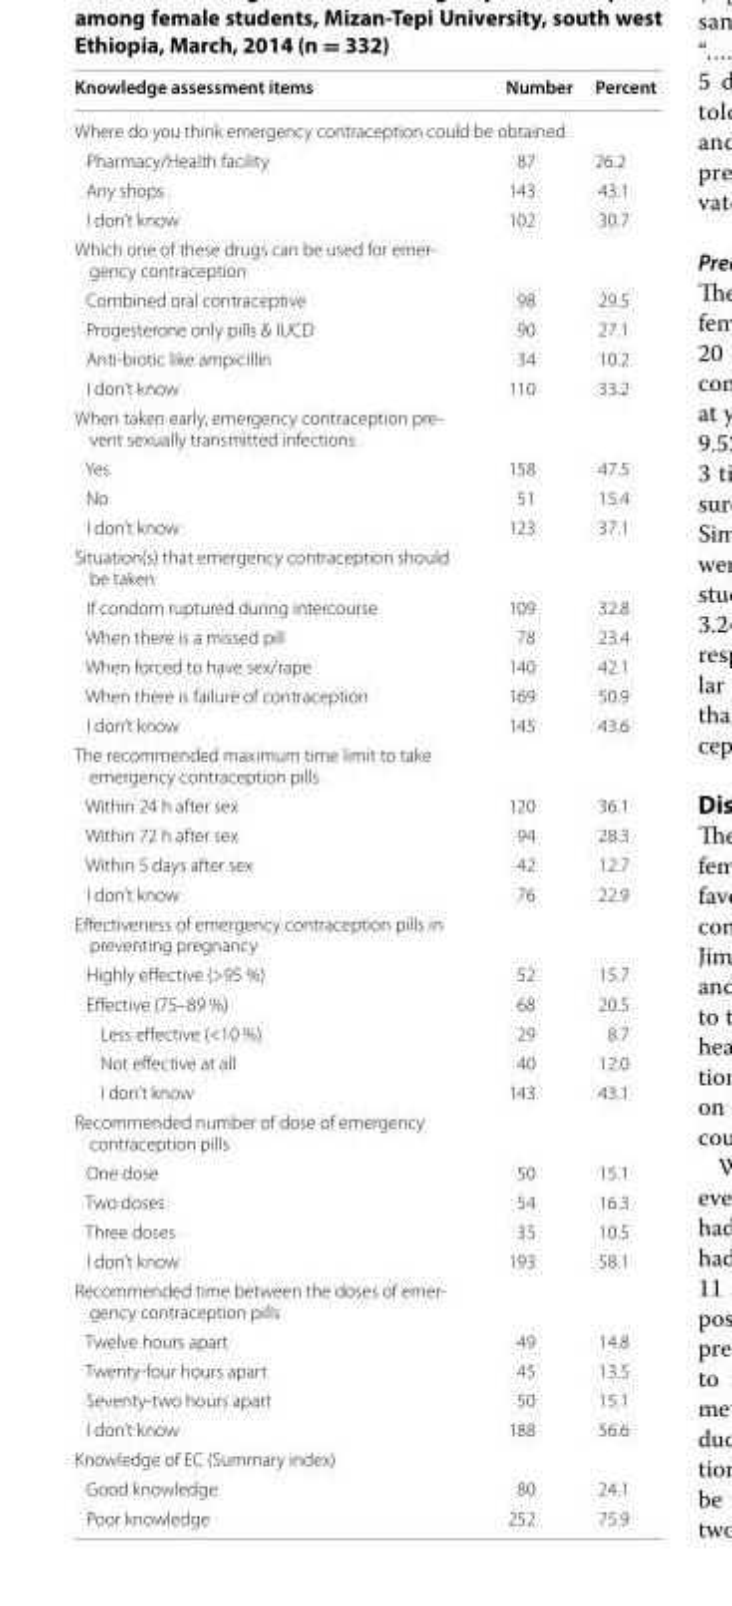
<table><thead><tr><td>Knowledge assessment items</td><td>Number</td><td>Percent</td></tr></thead><tbody><tr><td colspan="3">Where do you think emergency contraception could be obtained</td></tr><tr><td>Pharmacy/Health facility</td><td>87</td><td>26.2</td></tr><tr><td>Any shops</td><td>143</td><td>43.1</td></tr><tr><td>I don’t know</td><td>102</td><td>30.7</td></tr><tr><td colspan="3">Which one of these drugs can be used for emer- gency contraception</td></tr><tr><td>Combined oral contraceptive</td><td>98</td><td>29.5</td></tr><tr><td>Progesterone only pills &amp; IUCD</td><td>90</td><td>27.1</td></tr><tr><td>Anti-biotic like ampicillin</td><td>34</td><td>10.2</td></tr><tr><td>I don’t know</td><td>110</td><td>33.2</td></tr><tr><td colspan="3">When taken early, emergency contraception pre- vent sexually transmitted infections</td></tr><tr><td>Yes</td><td>158</td><td>47.5</td></tr><tr><td>No</td><td>51</td><td>15.4</td></tr><tr><td>I don’t know</td><td>123</td><td>37.1</td></tr><tr><td colspan="3">Situation(s) that emergency contraception should be taken</td></tr><tr><td>If condom ruptured during intercourse</td><td>109</td><td>32.8</td></tr><tr><td>When there is a missed pill</td><td>78</td><td>23.4</td></tr><tr><td>When forced to have sex/rape</td><td>140</td><td>42.1</td></tr><tr><td>When there is failure of contraception</td><td>169</td><td>50.9</td></tr><tr><td>I don’t know</td><td>145</td><td>43.6</td></tr><tr><td colspan="3">The recommended maximum time limit to take emergency contraception pills</td></tr><tr><td>Within 24 h after sex</td><td>120</td><td>36.1</td></tr><tr><td>Within 72 h after sex</td><td>94</td><td>28.3</td></tr><tr><td>Within 5 days after sex</td><td>42</td><td>12.7</td></tr><tr><td>I don’t know</td><td>76</td><td>22.9</td></tr><tr><td colspan="3">Effectiveness of emergency contraception pills in preventing pregnancy</td></tr><tr><td>Highly effective (&gt;95 %)</td><td>52</td><td>15.7</td></tr><tr><td>Effective (75–89 %)</td><td>68</td><td>20.5</td></tr><tr><td>Less effective (&lt;10 %)</td><td>29</td><td>8.7</td></tr><tr><td>Not effective at all</td><td>40</td><td>12.0</td></tr><tr><td>I don’t know</td><td>143</td><td>43.1</td></tr><tr><td colspan="3">Recommended number of dose of emergency contraception pills</td></tr><tr><td>One dose</td><td>50</td><td>15.1</td></tr><tr><td>Two doses</td><td>54</td><td>16.3</td></tr><tr><td>Three doses</td><td>35</td><td>10.5</td></tr><tr><td>I don’t know</td><td>193</td><td>58.1</td></tr><tr><td colspan="3">Recommended time between the doses of emer- gency contraception pills</td></tr><tr><td>Twelve hours apart</td><td>49</td><td>14.8</td></tr><tr><td>Twenty-four hours apart</td><td>45</td><td>13.5</td></tr><tr><td>Seventy-two hours apart</td><td>50</td><td>15.1</td></tr><tr><td>I don’t know</td><td>188</td><td>56.6</td></tr><tr><td colspan="3">Knowledge of EC (Summary index)</td></tr><tr><td>Good knowledge</td><td>80</td><td>24.1</td></tr><tr><td>Poor knowledge</td><td>252</td><td>75.9</td></tr></tbody></table>